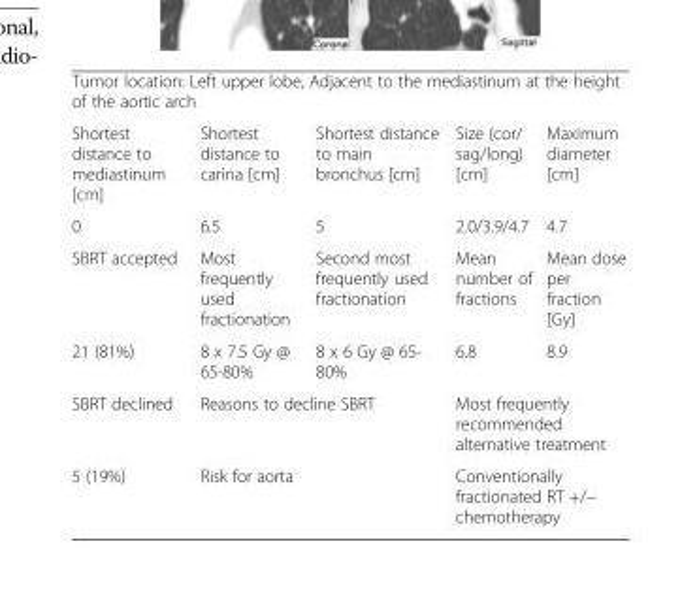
<table><tbody><tr><td colspan="5">Tumor location: Left upper lobe, Adjacent to the mediastinum at the height of the aortic arch</td></tr><tr><td>Shortest distance to mediastinum [cm]</td><td>Shortest distance to carina [cm]</td><td>Shortest distance to main bronchus [cm]</td><td>Size (cor/ sag/long) [cm]</td><td>Maximum diameter [cm]</td></tr><tr><td>0</td><td>6.5</td><td>5</td><td>2.0/3.9/4.7</td><td>4.7</td></tr><tr><td>SBRT accepted</td><td>Most frequently used fractionation</td><td>Second most frequently used fractionation</td><td>Mean number of fractions</td><td>Mean dose per fraction [Gy]</td></tr><tr><td>21 (81%)</td><td>8 x 7.5 Gy @ 65-80%</td><td>8 x 6 Gy @ 65- 80%</td><td>6.8</td><td>8.9</td></tr><tr><td>SBRT declined</td><td colspan="2">Reasons to decline SBRT</td><td colspan="2">Most frequently recommended alternative treatment</td></tr><tr><td>5 (19%)</td><td colspan="2">Risk for aorta</td><td colspan="2">Conventionally fractionated RT +/− chemotherapy</td></tr></tbody></table>